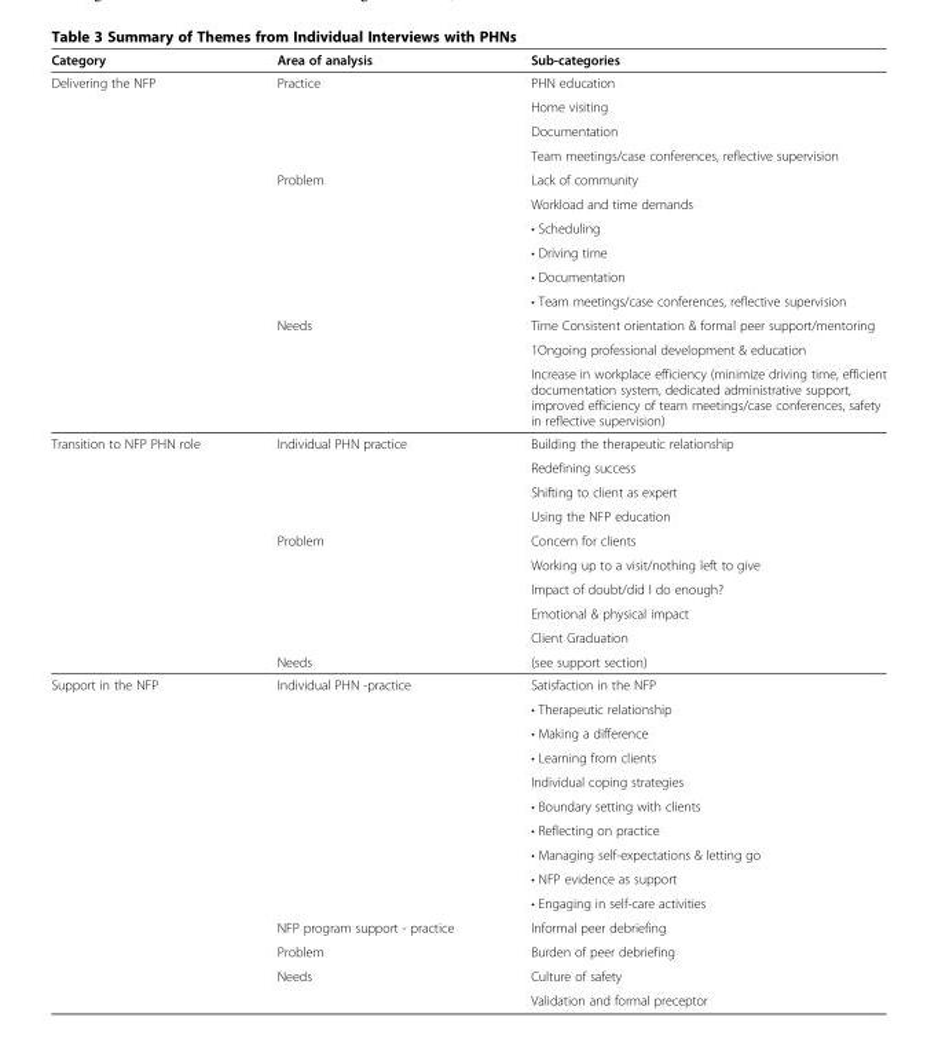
<table><thead><tr><td>Category</td><td>Area of analysis</td><td>Sub-categories</td></tr></thead><tbody><tr><td rowspan="13">Delivering the NFP</td><td rowspan="4">Practice</td><td>PHN education</td></tr><tr><td>Home visiting</td></tr><tr><td>Documentation</td></tr><tr><td>Team meetings/case conferences, reflective supervision</td></tr><tr><td rowspan="6">Problem</td><td>Lack of community</td></tr><tr><td>Workload and time demands</td></tr><tr><td>• Scheduling</td></tr><tr><td>• Driving time</td></tr><tr><td>• Documentation</td></tr><tr><td>• Team meetings/case conferences, reflective supervision</td></tr><tr><td rowspan="3">Needs</td><td>Time Consistent orientation &amp; formal peer support/mentoring</td></tr><tr><td>1Ongoing professional development &amp; education</td></tr><tr><td>Increase in workplace efficiency (minimize driving time, efficient documentation system, dedicated administrative support, improved efficiency of team meetings/case conferences, safety in reflective supervision)</td></tr><tr><td rowspan="10">Transition to NFP PHN role</td><td rowspan="4">Individual PHN practice</td><td>Building the therapeutic relationship</td></tr><tr><td>Redefining success</td></tr><tr><td>Shifting to client as expert</td></tr><tr><td>Using the NFP education</td></tr><tr><td rowspan="5">Problem</td><td>Concern for clients</td></tr><tr><td>Working up to a visit/nothing left to give</td></tr><tr><td>Impact of doubt/did I do enough?</td></tr><tr><td>Emotional &amp; physical impact</td></tr><tr><td>Client Graduation</td></tr><tr><td>Needs</td><td>(see support section)</td></tr><tr><td rowspan="14">Support in the NFP</td><td rowspan="10">Individual PHN -practice</td><td>Satisfaction in the NFP</td></tr><tr><td>• Therapeutic relationship</td></tr><tr><td>• Making a difference</td></tr><tr><td>• Learning from clients</td></tr><tr><td>Individual coping strategies</td></tr><tr><td>• Boundary setting with clients</td></tr><tr><td>• Reflecting on practice</td></tr><tr><td>• Managing self-expectations &amp; letting go</td></tr><tr><td>• NFP evidence as support</td></tr><tr><td>• Engaging in self-care activities</td></tr><tr><td>NFP program support - practice</td><td>Informal peer debriefing</td></tr><tr><td>Problem</td><td>Burden of peer debriefing</td></tr><tr><td rowspan="2">Needs</td><td>Culture of safety</td></tr><tr><td>Validation and formal preceptor</td></tr></tbody></table>